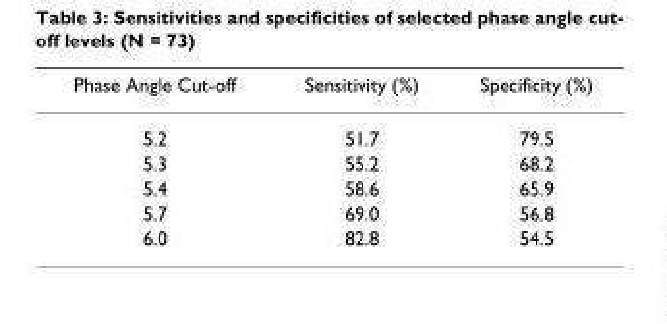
<table><thead><tr><td>Phase Angle Cut-off</td><td>Sensitivity (%)</td><td>Specificity (%)</td></tr></thead><tbody><tr><td>5.2</td><td>51.7</td><td>79.5</td></tr><tr><td>5.3</td><td>55.2</td><td>68.2</td></tr><tr><td>5.4</td><td>58.6</td><td>65.9</td></tr><tr><td>5.7</td><td>69.0</td><td>56.8</td></tr><tr><td>6.0</td><td>82.8</td><td>54.5</td></tr></tbody></table>